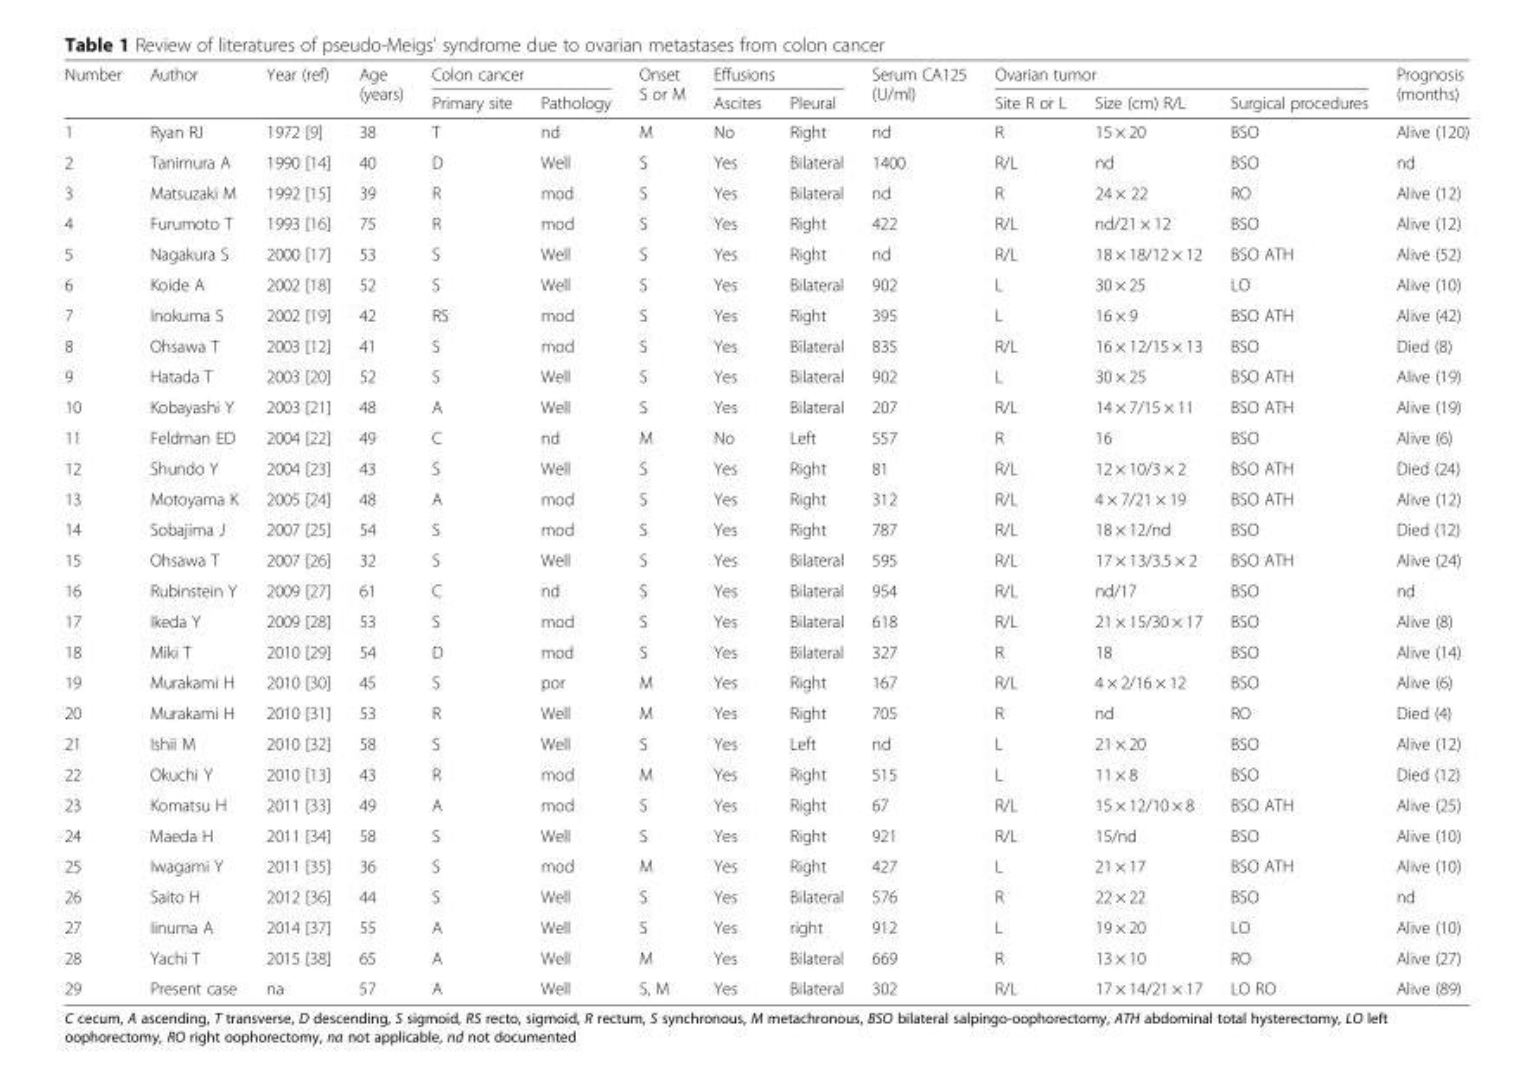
<table><thead><tr><td rowspan="2">Number</td><td rowspan="2">Author</td><td rowspan="2">Year (ref)</td><td rowspan="2">Age (years)</td><td colspan="2">Colon cancer</td><td rowspan="2">Onset S or M</td><td colspan="2">Effusions</td><td rowspan="2">Serum CA125 (U/ml)</td><td colspan="3">Ovarian tumor</td><td rowspan="2">Prognosis (months)</td></tr><tr><td>Primary site</td><td>Pathology</td><td>Ascites</td><td>Pleural</td><td>Site R or L</td><td>Size (cm) R/L</td><td>Surgical procedures</td></tr></thead><tbody><tr><td>1</td><td>Ryan RJ</td><td>1972 [9]</td><td>38</td><td>T</td><td>nd</td><td>M</td><td>No</td><td>Right</td><td>nd</td><td>R</td><td>15 × 20</td><td>BSO</td><td>Alive (120)</td></tr><tr><td>2</td><td>Tanimura A</td><td>1990 [14]</td><td>40</td><td>D</td><td>Well</td><td>S</td><td>Yes</td><td>Bilateral</td><td>1400</td><td>R/L</td><td>nd</td><td>BSO</td><td>nd</td></tr><tr><td>3</td><td>Matsuzaki M</td><td>1992 [15]</td><td>39</td><td>R</td><td>mod</td><td>S</td><td>Yes</td><td>Bilateral</td><td>nd</td><td>R</td><td>24 × 22</td><td>RO</td><td>Alive (12)</td></tr><tr><td>4</td><td>Furumoto T</td><td>1993 [16]</td><td>75</td><td>R</td><td>mod</td><td>S</td><td>Yes</td><td>Right</td><td>422</td><td>R/L</td><td>nd/21 × 12</td><td>BSO</td><td>Alive (12)</td></tr><tr><td>5</td><td>Nagakura S</td><td>2000 [17]</td><td>53</td><td>S</td><td>Well</td><td>S</td><td>Yes</td><td>Right</td><td>nd</td><td>R/L</td><td>18 × 18/12 × 12</td><td>BSO ATH</td><td>Alive (52)</td></tr><tr><td>6</td><td>Koide A</td><td>2002 [18]</td><td>52</td><td>S</td><td>Well</td><td>S</td><td>Yes</td><td>Bilateral</td><td>902</td><td>L</td><td>30 × 25</td><td>LO</td><td>Alive (10)</td></tr><tr><td>7</td><td>Inokuma S</td><td>2002 [19]</td><td>42</td><td>RS</td><td>mod</td><td>S</td><td>Yes</td><td>Right</td><td>395</td><td>L</td><td>16 × 9</td><td>BSO ATH</td><td>Alive (42)</td></tr><tr><td>8</td><td>Ohsawa T</td><td>2003 [12]</td><td>41</td><td>S</td><td>mod</td><td>S</td><td>Yes</td><td>Bilateral</td><td>835</td><td>R/L</td><td>16 × 12/15 × 13</td><td>BSO</td><td>Died (8)</td></tr><tr><td>9</td><td>Hatada T</td><td>2003 [20]</td><td>52</td><td>S</td><td>Well</td><td>S</td><td>Yes</td><td>Bilateral</td><td>902</td><td>L</td><td>30 × 25</td><td>BSO ATH</td><td>Alive (19)</td></tr><tr><td>10</td><td>Kobayashi Y</td><td>2003 [21]</td><td>48</td><td>A</td><td>Well</td><td>S</td><td>Yes</td><td>Bilateral</td><td>207</td><td>R/L</td><td>14 × 7/15 × 11</td><td>BSO ATH</td><td>Alive (19)</td></tr><tr><td>11</td><td>Feldman ED</td><td>2004 [22]</td><td>49</td><td>C</td><td>nd</td><td>M</td><td>No</td><td>Left</td><td>557</td><td>R</td><td>16</td><td>BSO</td><td>Alive (6)</td></tr><tr><td>12</td><td>Shundo Y</td><td>2004 [23]</td><td>43</td><td>S</td><td>Well</td><td>S</td><td>Yes</td><td>Right</td><td>81</td><td>R/L</td><td>12 × 10/3 × 2</td><td>BSO ATH</td><td>Died (24)</td></tr><tr><td>13</td><td>Motoyama K</td><td>2005 [24]</td><td>48</td><td>A</td><td>mod</td><td>S</td><td>Yes</td><td>Right</td><td>312</td><td>R/L</td><td>4 × 7/21 × 19</td><td>BSO ATH</td><td>Alive (12)</td></tr><tr><td>14</td><td>Sobajima J</td><td>2007 [25]</td><td>54</td><td>S</td><td>mod</td><td>S</td><td>Yes</td><td>Right</td><td>787</td><td>R/L</td><td>18 × 12/nd</td><td>BSO</td><td>Died (12)</td></tr><tr><td>15</td><td>Ohsawa T</td><td>2007 [26]</td><td>32</td><td>S</td><td>Well</td><td>S</td><td>Yes</td><td>Bilateral</td><td>595</td><td>R/L</td><td>17 × 13/3.5 × 2</td><td>BSO ATH</td><td>Alive (24)</td></tr><tr><td>16</td><td>Rubinstein Y</td><td>2009 [27]</td><td>61</td><td>C</td><td>nd</td><td>S</td><td>Yes</td><td>Bilateral</td><td>954</td><td>R/L</td><td>nd/17</td><td>BSO</td><td>nd</td></tr><tr><td>17</td><td>Ikeda Y</td><td>2009 [28]</td><td>53</td><td>S</td><td>mod</td><td>S</td><td>Yes</td><td>Bilateral</td><td>618</td><td>R/L</td><td>21 × 15/30 × 17</td><td>BSO</td><td>Alive (8)</td></tr><tr><td>18</td><td>Miki T</td><td>2010 [29]</td><td>54</td><td>D</td><td>mod</td><td>S</td><td>Yes</td><td>Bilateral</td><td>327</td><td>R</td><td>18</td><td>BSO</td><td>Alive (14)</td></tr><tr><td>19</td><td>Murakami H</td><td>2010 [30]</td><td>45</td><td>S</td><td>por</td><td>M</td><td>Yes</td><td>Right</td><td>167</td><td>R/L</td><td>4 × 2/16 × 12</td><td>BSO</td><td>Alive (6)</td></tr><tr><td>20</td><td>Murakami H</td><td>2010 [31]</td><td>53</td><td>R</td><td>Well</td><td>M</td><td>Yes</td><td>Right</td><td>705</td><td>R</td><td>nd</td><td>RO</td><td>Died (4)</td></tr><tr><td>21</td><td>Ishii M</td><td>2010 [32]</td><td>58</td><td>S</td><td>Well</td><td>S</td><td>Yes</td><td>Left</td><td>nd</td><td>L</td><td>21 × 20</td><td>BSO</td><td>Alive (12)</td></tr><tr><td>22</td><td>Okuchi Y</td><td>2010 [13]</td><td>43</td><td>R</td><td>mod</td><td>M</td><td>Yes</td><td>Right</td><td>515</td><td>L</td><td>11 × 8</td><td>BSO</td><td>Died (12)</td></tr><tr><td>23</td><td>Komatsu H</td><td>2011 [33]</td><td>49</td><td>A</td><td>mod</td><td>S</td><td>Yes</td><td>Right</td><td>67</td><td>R/L</td><td>15 × 12/10 × 8</td><td>BSO ATH</td><td>Alive (25)</td></tr><tr><td>24</td><td>Maeda H</td><td>2011 [34]</td><td>58</td><td>S</td><td>Well</td><td>S</td><td>Yes</td><td>Right</td><td>921</td><td>R/L</td><td>15/nd</td><td>BSO</td><td>Alive (10)</td></tr><tr><td>25</td><td>Iwagami Y</td><td>2011 [35]</td><td>36</td><td>S</td><td>mod</td><td>M</td><td>Yes</td><td>Right</td><td>427</td><td>L</td><td>21 × 17</td><td>BSO ATH</td><td>Alive (10)</td></tr><tr><td>26</td><td>Saito H</td><td>2012 [36]</td><td>44</td><td>S</td><td>Well</td><td>S</td><td>Yes</td><td>Bilateral</td><td>576</td><td>R</td><td>22 × 22</td><td>BSO</td><td>nd</td></tr><tr><td>27</td><td>Iinuma A</td><td>2014 [37]</td><td>55</td><td>A</td><td>Well</td><td>S</td><td>Yes</td><td>right</td><td>912</td><td>L</td><td>19 × 20</td><td>LO</td><td>Alive (10)</td></tr><tr><td>28</td><td>Yachi T</td><td>2015 [38]</td><td>65</td><td>A</td><td>Well</td><td>M</td><td>Yes</td><td>Bilateral</td><td>669</td><td>R</td><td>13 × 10</td><td>RO</td><td>Alive (27)</td></tr><tr><td>29</td><td>Present case</td><td>na</td><td>57</td><td>A</td><td>Well</td><td>S, M</td><td>Yes</td><td>Bilateral</td><td>302</td><td>R/L</td><td>17 × 14/21 × 17</td><td>LO RO</td><td>Alive (89)</td></tr></tbody></table>